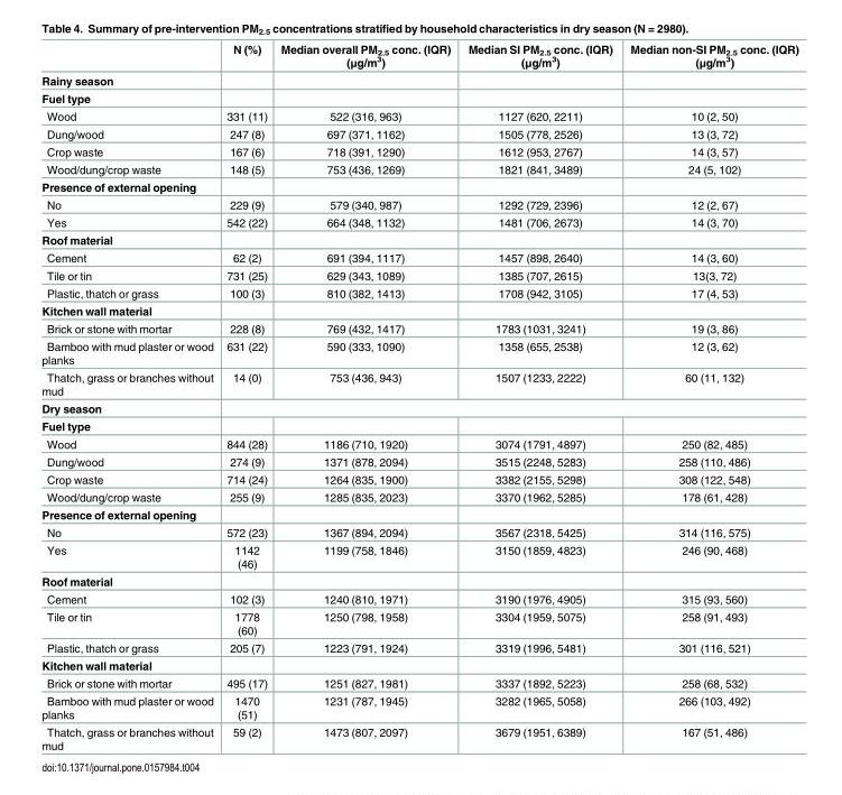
<table><thead><tr><td></td><td>N (%)</td><td>Median overall PM<sub>2.5</sub> conc. (IQR) (μg/m<sup>3</sup>)</td><td>Median SI PM<sub>2.5</sub> conc. (IQR) (μg/m<sup>3</sup>)</td><td>Median non-SI PM<sub>2.5</sub> conc. (IQR) (μg/m<sup>3</sup>)</td></tr></thead><tbody><tr><td colspan="5">Rainy season</td></tr><tr><td colspan="5">Fuel type</td></tr><tr><td>Wood</td><td>331 (11)</td><td>522 (316, 963)</td><td>1127 (620, 2211)</td><td>10 (2, 50)</td></tr><tr><td>Dung/wood</td><td>247 (8)</td><td>697 (371, 1162)</td><td>1505 (778, 2526)</td><td>13 (3, 72)</td></tr><tr><td>Crop waste</td><td>167 (6)</td><td>718 (391, 1290)</td><td>1612 (953, 2767)</td><td>14 (3, 57)</td></tr><tr><td>Wood/dung/crop waste</td><td>148 (5)</td><td>753 (436, 1269)</td><td>1821 (841, 3489)</td><td>24 (5, 102)</td></tr><tr><td colspan="5">Presence of external opening</td></tr><tr><td>No</td><td>229 (9)</td><td>579 (340, 987)</td><td>1292 (729, 2396)</td><td>12 (2, 67)</td></tr><tr><td>Yes</td><td>542 (22)</td><td>664 (348, 1132)</td><td>1481 (706, 2673)</td><td>14 (3, 70)</td></tr><tr><td colspan="5">Roof material</td></tr><tr><td>Cement</td><td>62 (2)</td><td>691 (394, 1117)</td><td>1457 (898, 2640)</td><td>14 (3, 60)</td></tr><tr><td>Tile or tin</td><td>731 (25)</td><td>629 (343, 1089)</td><td>1385 (707, 2615)</td><td>13(3, 72)</td></tr><tr><td>Plastic, thatch or grass</td><td>100 (3)</td><td>810 (382, 1413)</td><td>1708 (942, 3105)</td><td>17 (4, 53)</td></tr><tr><td colspan="5">Kitchen wall material</td></tr><tr><td>Brick or stone with mortar</td><td>228 (8)</td><td>769 (432, 1417)</td><td>1783 (1031, 3241)</td><td>19 (3, 86)</td></tr><tr><td>Bamboo with mud plaster or wood planks</td><td>631 (22)</td><td>590 (333, 1090)</td><td>1358 (655, 2538)</td><td>12 (3, 62)</td></tr><tr><td>Thatch, grass or branches without mud</td><td>14 (0)</td><td>753 (436, 943)</td><td>1507 (1233, 2222)</td><td>60 (11, 132)</td></tr><tr><td colspan="5">Dry season</td></tr><tr><td colspan="5">Fuel type</td></tr><tr><td>Wood</td><td>844 (28)</td><td>1186 (710, 1920)</td><td>3074 (1791, 4897)</td><td>250 (82, 485)</td></tr><tr><td>Dung/wood</td><td>274 (9)</td><td>1371 (878, 2094)</td><td>3515 (2248, 5283)</td><td>258 (110, 486)</td></tr><tr><td>Crop waste</td><td>714 (24)</td><td>1264 (835, 1900)</td><td>3382 (2155, 5298)</td><td>308 (122, 548)</td></tr><tr><td>Wood/dung/crop waste</td><td>255 (9)</td><td>1285 (835, 2023)</td><td>3370 (1962, 5285)</td><td>178 (61, 428)</td></tr><tr><td colspan="5">Presence of external opening</td></tr><tr><td>No</td><td>572 (23)</td><td>1367 (894, 2094)</td><td>3567 (2318, 5425)</td><td>314 (116, 575)</td></tr><tr><td>Yes</td><td>1142 (46)</td><td>1199 (758, 1846)</td><td>3150 (1859, 4823)</td><td>246 (90, 468)</td></tr><tr><td colspan="5">Roof material</td></tr><tr><td>Cement</td><td>102 (3)</td><td>1240 (810, 1971)</td><td>3190 (1976, 4905)</td><td>315 (93, 560)</td></tr><tr><td>Tile or tin</td><td>1778 (60)</td><td>1250 (798, 1958)</td><td>3304 (1959, 5075)</td><td>258 (91, 493)</td></tr><tr><td>Plastic, thatch or grass</td><td>205 (7)</td><td>1223 (791, 1924)</td><td>3319 (1996, 5481)</td><td>301 (116, 521)</td></tr><tr><td colspan="5">Kitchen wall material</td></tr><tr><td>Brick or stone with mortar</td><td>495 (17)</td><td>1251 (827, 1981)</td><td>3337 (1892, 5223)</td><td>258 (68, 532)</td></tr><tr><td>Bamboo with mud plaster or wood planks</td><td>1470 (51)</td><td>1231 (787, 1945)</td><td>3282 (1965, 5058)</td><td>266 (103, 492)</td></tr><tr><td>Thatch, grass or branches without mud</td><td>59 (2)</td><td>1473 (807, 2097)</td><td>3679 (1951, 6389)</td><td>167 (51, 486)</td></tr></tbody></table>